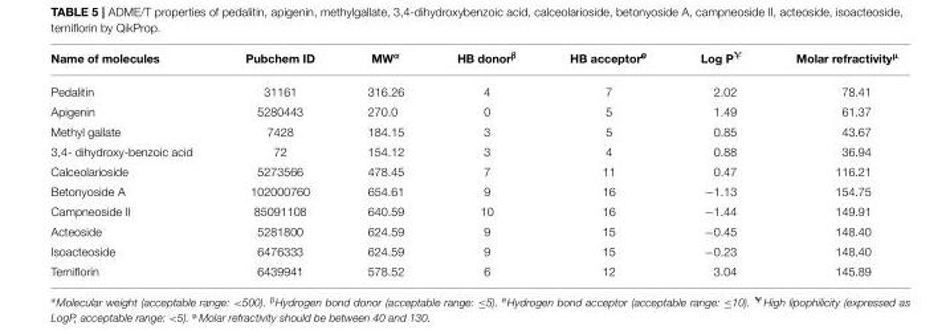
<table><thead><tr><td>Name of molecules</td><td>Pubchem ID</td><td>MW<sup>α</sup></td><td>HB donor<sup>β</sup></td><td>HB acceptor<sup>e</sup></td><td>Log P<sup>¥</sup></td><td>Molar refractivity<sup>µ</sup></td></tr></thead><tbody><tr><td>Pedalitin</td><td>31161</td><td>316.26</td><td>4</td><td>7</td><td>2.02</td><td>78.41</td></tr><tr><td>Apigenin</td><td>5280443</td><td>270.0</td><td>0</td><td>5</td><td>1.49</td><td>61.37</td></tr><tr><td>Methyl gallate</td><td>7428</td><td>184.15</td><td>3</td><td>5</td><td>0.85</td><td>43.67</td></tr><tr><td>3,4- dihydroxy-benzoic acid</td><td>72</td><td>154.12</td><td>3</td><td>4</td><td>0.88</td><td>36.94</td></tr><tr><td>Calceolarioside</td><td>5273566</td><td>478.45</td><td>7</td><td>11</td><td>0.47</td><td>116.21</td></tr><tr><td>Betonyoside A</td><td>102000760</td><td>654.61</td><td>9</td><td>16</td><td>−1.13</td><td>154.75</td></tr><tr><td>Campneoside II</td><td>85091108</td><td>640.59</td><td>10</td><td>16</td><td>−1.44</td><td>149.91</td></tr><tr><td>Acteoside</td><td>5281800</td><td>624.59</td><td>9</td><td>15</td><td>−0.45</td><td>148.40</td></tr><tr><td>Isoacteoside</td><td>6476333</td><td>624.59</td><td>9</td><td>15</td><td>−0.23</td><td>148.40</td></tr><tr><td>Terniflorin</td><td>6439941</td><td>578.52</td><td>6</td><td>12</td><td>3.04</td><td>145.89</td></tr></tbody></table>